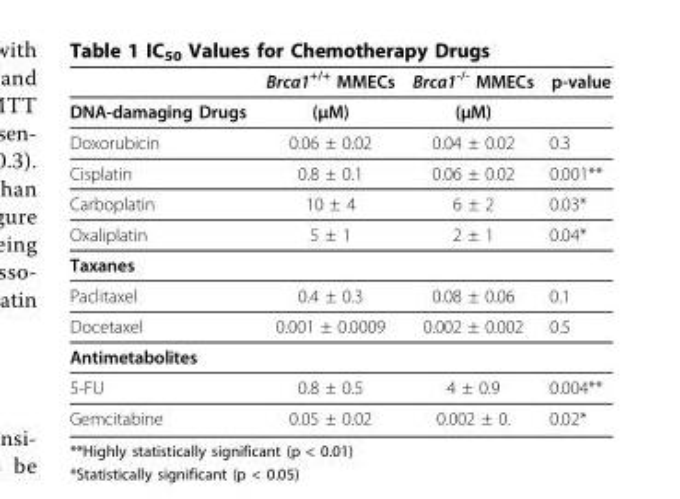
<table><thead><tr><td></td><td>Brca1<sup>+/+</sup> MMECs</td><td>Brca1<sup>-/-</sup> MMECs</td><td>p-value</td></tr></thead><tbody><tr><td>DNA-damaging Drugs</td><td>(μM)</td><td>(μM)</td><td></td></tr><tr><td>Doxorubicin</td><td>0.06 ± 0.02</td><td>0.04 ± 0.02</td><td>0.3</td></tr><tr><td>Cisplatin</td><td>0.8 ± 0.1</td><td>0.06 ± 0.02</td><td>0.001**</td></tr><tr><td>Carboplatin</td><td>10 ± 4</td><td>6 ± 2</td><td>0.03*</td></tr><tr><td>Oxaliplatin</td><td>5 ± 1</td><td>2 ± 1</td><td>0.04*</td></tr><tr><td colspan="4">Taxanes</td></tr><tr><td>Paclitaxel</td><td>0.4 ± 0.3</td><td>0.08 ± 0.06</td><td>0.1</td></tr><tr><td>Docetaxel</td><td>0.001 ± 0.0009</td><td>0.002 ± 0.002</td><td>0.5</td></tr><tr><td colspan="4">Antimetabolites</td></tr><tr><td>5-FU</td><td>0.8 ± 0.5</td><td>4 ± 0.9</td><td>0.004**</td></tr><tr><td>Gemcitabine</td><td>0.05 ± 0.02</td><td>0.002 ± 0.</td><td>0.02*</td></tr></tbody></table>